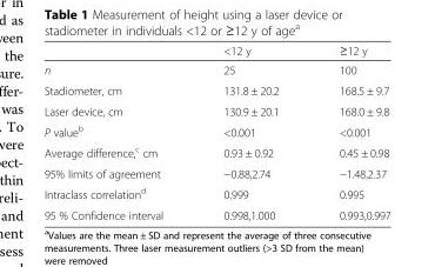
<table><thead><tr><td></td><td>&lt;12 y</td><td>≥12 y</td></tr></thead><tbody><tr><td>n</td><td>25</td><td>100</td></tr><tr><td>Stadiometer, cm</td><td>131.8 ± 20.2</td><td>168.5 ± 9.7</td></tr><tr><td>Laser device, cm</td><td>130.9 ± 20.1</td><td>168.0 ± 9.8</td></tr><tr><td>P value<sup>b</sup></td><td>&lt;0.001</td><td>&lt;0.001</td></tr><tr><td>Average difference,<sup>c</sup> cm</td><td>0.93 ± 0.92</td><td>0.45 ± 0.98</td></tr><tr><td>95% limits of agreement</td><td>−0.88,2.74</td><td>−1.48,2.37</td></tr><tr><td>Intraclass correlation<sup>d</sup></td><td>0.999</td><td>0.995</td></tr><tr><td>95 % Confidence interval</td><td>0.998,1.000</td><td>0.993,0.997</td></tr></tbody></table>